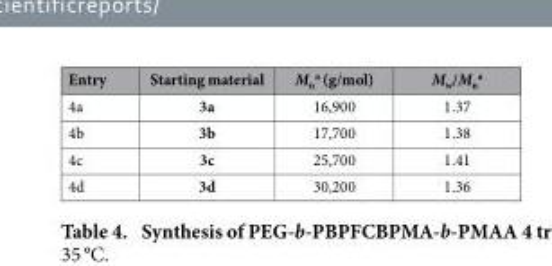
<table><thead><tr><td>Entry</td><td>Starting material</td><td>M<sub>n</sub> <sup>a</sup> (g/mol)</td><td>M<sub>w</sub>/M<sub>n</sub> <sup>a</sup></td></tr></thead><tbody><tr><td>4a</td><td>3a</td><td>16,900</td><td>1.37</td></tr><tr><td>4b</td><td>3b</td><td>17,700</td><td>1.38</td></tr><tr><td>4c</td><td>3c</td><td>25,700</td><td>1.41</td></tr><tr><td>4d</td><td>3d</td><td>30,200</td><td>1.36</td></tr></tbody></table>